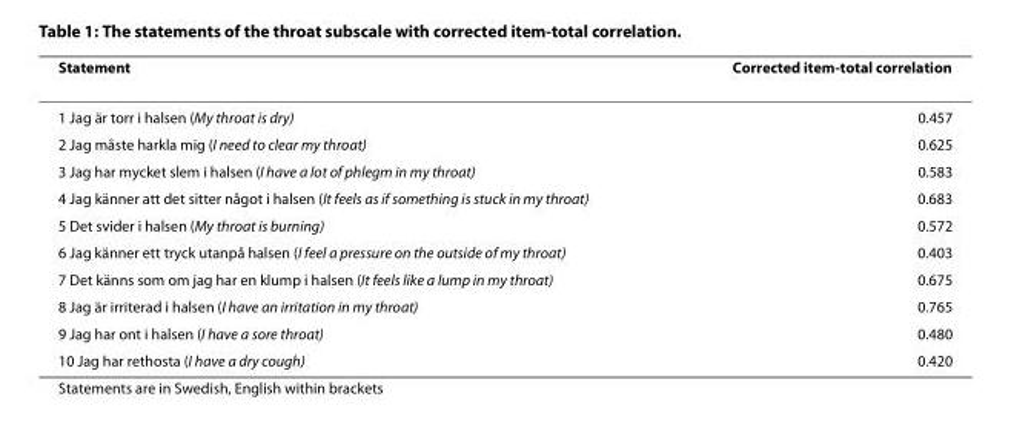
<table><thead><tr><td>Statement</td><td>Corrected item-total correlation</td></tr></thead><tbody><tr><td>1 Jag är torr i halsen (My throat is dry)</td><td>0.457</td></tr><tr><td>2 Jag måste harkla mig (I need to clear my throat)</td><td>0.625</td></tr><tr><td>3 Jag har mycket slem i halsen (I have a lot of phlegm in my throat)</td><td>0.583</td></tr><tr><td>4 Jag känner att det sitter något i halsen (It feels as if something is stuck in my throat)</td><td>0.683</td></tr><tr><td>5 Det svider i halsen (My throat is burning)</td><td>0.572</td></tr><tr><td>6 Jag känner ett tryck utanpå halsen (I feel a pressure on the outside of my throat)</td><td>0.403</td></tr><tr><td>7 Det känns som om jag har en klump i halsen (It feels like a lump in my throat)</td><td>0.675</td></tr><tr><td>8 Jag är irriterad i halsen (I have an irritation in my throat)</td><td>0.765</td></tr><tr><td>9 Jag har ont i halsen (I have a sore throat)</td><td>0.480</td></tr><tr><td>10 Jag har rethosta (I have a dry cough)</td><td>0.420</td></tr></tbody></table>